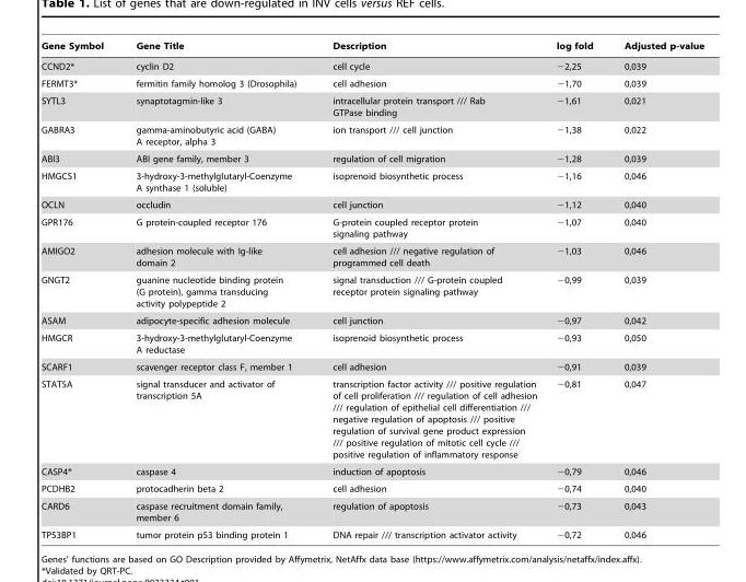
<table><thead><tr><td>Gene Symbol</td><td>Gene Title</td><td>Description</td><td>log fold</td><td>Adjusted p-value</td></tr></thead><tbody><tr><td>CCND2*</td><td>cyclin D2</td><td>cell cycle</td><td>−2,25</td><td>0,039</td></tr><tr><td>FERMT3*</td><td>fermitin family homolog 3 (Drosophila)</td><td>cell adhesion</td><td>−1,70</td><td>0,039</td></tr><tr><td>SYTL3</td><td>synaptotagmin-like 3</td><td>intracellular protein transport /// Rab GTPase binding</td><td>−1,61</td><td>0,021</td></tr><tr><td>GABRA3</td><td>gamma-aminobutyric acid (GABA) A receptor, alpha 3</td><td>ion transport /// cell junction</td><td>−1,38</td><td>0,022</td></tr><tr><td>ABI3</td><td>ABI gene family, member 3</td><td>regulation of cell migration</td><td>−1,28</td><td>0,039</td></tr><tr><td>HMGCS1</td><td>3-hydroxy-3-methylglutaryl-Coenzyme A synthase 1 (soluble)</td><td>isoprenoid biosynthetic process</td><td>−1,16</td><td>0,046</td></tr><tr><td>OCLN</td><td>occludin</td><td>cell junction</td><td>−1,12</td><td>0,040</td></tr><tr><td>GPR176</td><td>G protein-coupled receptor 176</td><td>G-protein coupled receptor protein signaling pathway</td><td>−1,07</td><td>0,040</td></tr><tr><td>AMIGO2</td><td>adhesion molecule with Ig-like domain 2</td><td>cell adhesion /// negative regulation of programmed cell death</td><td>−1,03</td><td>0,046</td></tr><tr><td>GNGT2</td><td>guanine nucleotide binding protein (G protein), gamma transducing activity polypeptide 2</td><td>signal transduction /// G-protein coupled receptor protein signaling pathway</td><td>−0,99</td><td>0,039</td></tr><tr><td>ASAM</td><td>adipocyte-specific adhesion molecule</td><td>cell junction</td><td>−0,97</td><td>0,042</td></tr><tr><td>HMGCR</td><td>3-hydroxy-3-methylglutaryl-Coenzyme A reductase</td><td>isoprenoid biosynthetic process</td><td>−0,93</td><td>0,050</td></tr><tr><td>SCARF1</td><td>scavenger receptor class F, member 1</td><td>cell adhesion</td><td>−0,91</td><td>0,039</td></tr><tr><td>STAT5A</td><td>signal transducer and activator of transcription 5A</td><td>transcription factor activity /// positive regulation of cell proliferation /// regulation of cell adhesion /// regulation of epithelial cell differentiation /// negative regulation of apoptosis /// positive regulation of survival gene product expression /// positive regulation of mitotic cell cycle /// positive regulation of inflammatory response</td><td>−0,81</td><td>0,047</td></tr><tr><td>CASP4*</td><td>caspase 4</td><td>induction of apoptosis</td><td>−0,79</td><td>0,046</td></tr><tr><td>PCDHB2</td><td>protocadherin beta 2</td><td>cell adhesion</td><td>−0,74</td><td>0,040</td></tr><tr><td>CARD6</td><td>caspase recruitment domain family, member 6</td><td>regulation of apoptosis</td><td>−0,73</td><td>0,043</td></tr><tr><td>TP53BP1</td><td>tumor protein p53 binding protein 1</td><td>DNA repair /// transcription activator activity</td><td>−0,72</td><td>0,046</td></tr></tbody></table>